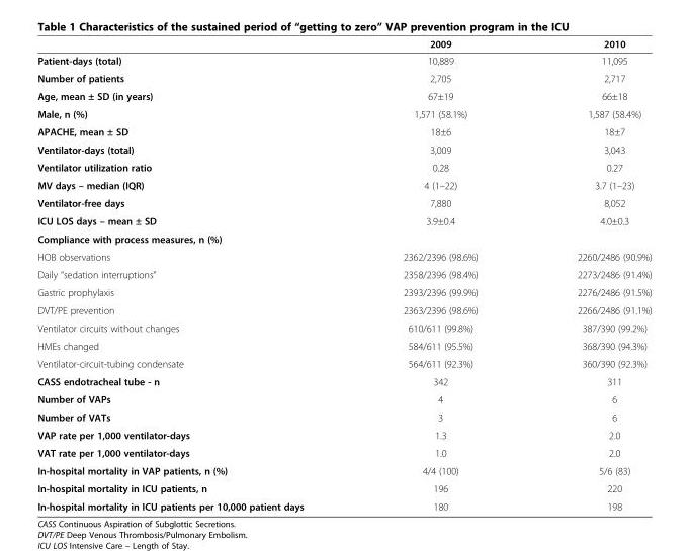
<table><thead><tr><td></td><td>2009</td><td>2010</td></tr></thead><tbody><tr><td>Patient-days (total)</td><td>10,889</td><td>11,095</td></tr><tr><td>Number of patients</td><td>2,705</td><td>2,717</td></tr><tr><td>Age, mean ± SD (in years)</td><td>67±19</td><td>66±18</td></tr><tr><td>Male, n (%)</td><td>1,571 (58.1%)</td><td>1,587 (58.4%)</td></tr><tr><td>APACHE, mean ± SD</td><td>18±6</td><td>18±7</td></tr><tr><td>Ventilator-days (total)</td><td>3,009</td><td>3,043</td></tr><tr><td>Ventilator utilization ratio</td><td>0.28</td><td>0.27</td></tr><tr><td>MV days – median (IQR)</td><td>4 (1–22)</td><td>3.7 (1–23)</td></tr><tr><td>Ventilator-free days</td><td>7,880</td><td>8,052</td></tr><tr><td>ICU LOS days – mean ± SD</td><td>3.9±0.4</td><td>4.0±0.3</td></tr><tr><td colspan="3">Compliance with process measures, n (%)</td></tr><tr><td>HOB observations</td><td>2362/2396 (98.6%)</td><td>2260/2486 (90.9%)</td></tr><tr><td>Daily “sedation interruptions”</td><td>2358/2396 (98.4%)</td><td>2273/2486 (91.4%)</td></tr><tr><td>Gastric prophylaxis</td><td>2393/2396 (99.9%)</td><td>2276/2486 (91.5%)</td></tr><tr><td>DVT/PE prevention</td><td>2363/2396 (98.6%)</td><td>2266/2486 (91.1%)</td></tr><tr><td>Ventilator circuits without changes</td><td>610/611 (99.8%)</td><td>387/390 (99.2%)</td></tr><tr><td>HMEs changed</td><td>584/611 (95.5%)</td><td>368/390 (94.3%)</td></tr><tr><td>Ventilator-circuit-tubing condensate</td><td>564/611 (92.3%)</td><td>360/390 (92.3%)</td></tr><tr><td>CASS endotracheal tube - n</td><td>342</td><td>311</td></tr><tr><td>Number of VAPs</td><td>4</td><td>6</td></tr><tr><td>Number of VATs</td><td>3</td><td>6</td></tr><tr><td>VAP rate per 1,000 ventilator-days</td><td>1.3</td><td>2.0</td></tr><tr><td>VAT rate per 1,000 ventilator-days</td><td>1.0</td><td>2.0</td></tr><tr><td>In-hospital mortality in VAP patients, n (%)</td><td>4/4 (100)</td><td>5/6 (83)</td></tr><tr><td>In-hospital mortality in ICU patients, n</td><td>196</td><td>220</td></tr><tr><td>In-hospital mortality in ICU patients per 10,000 patient days</td><td>180</td><td>198</td></tr></tbody></table>